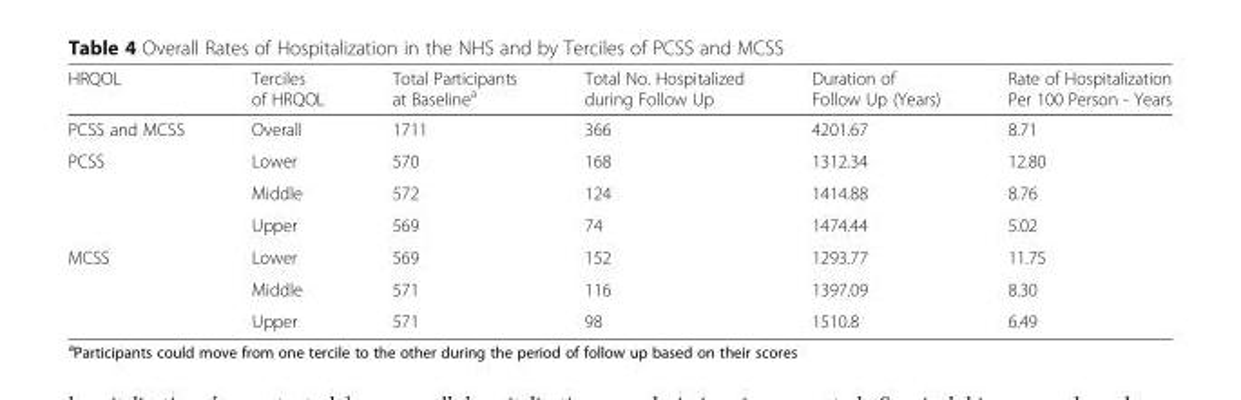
<table><thead><tr><td>HRQOL</td><td>Terciles of HRQOL</td><td>Total Participants at Baseline<sup>a</sup></td><td>Total No. Hospitalized during Follow Up</td><td>Duration of Follow Up (Years)</td><td>Rate of Hospitalization Per 100 Person - Years</td></tr></thead><tbody><tr><td>PCSS and MCSS</td><td>Overall</td><td>1711</td><td>366</td><td>4201.67</td><td>8.71</td></tr><tr><td rowspan="3">PCSS</td><td>Lower</td><td>570</td><td>168</td><td>1312.34</td><td>12.80</td></tr><tr><td>Middle</td><td>572</td><td>124</td><td>1414.88</td><td>8.76</td></tr><tr><td>Upper</td><td>569</td><td>74</td><td>1474.44</td><td>5.02</td></tr><tr><td rowspan="3">MCSS</td><td>Lower</td><td>569</td><td>152</td><td>1293.77</td><td>11.75</td></tr><tr><td>Middle</td><td>571</td><td>116</td><td>1397.09</td><td>8.30</td></tr><tr><td>Upper</td><td>571</td><td>98</td><td>1510.8</td><td>6.49</td></tr></tbody></table>